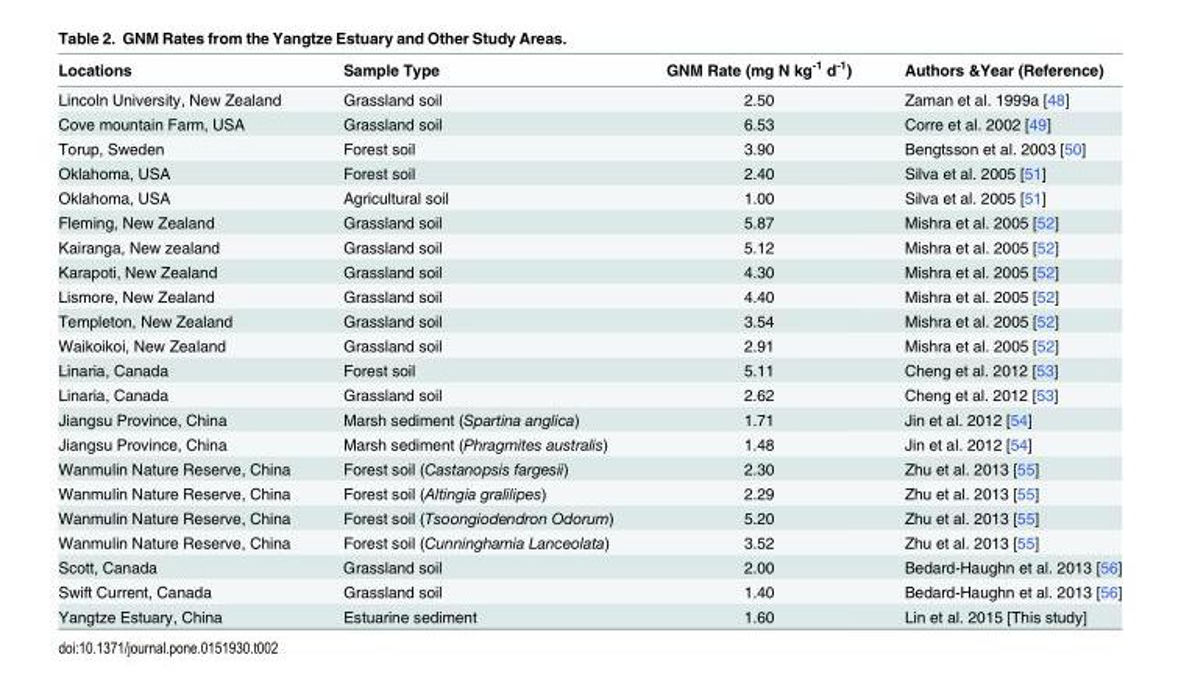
<table><thead><tr><td>Locations</td><td>Sample Type</td><td>GNM Rate (mg N kg<sup>-1</sup> d<sup>-1</sup>)</td><td>Authors &amp;Year (Reference)</td></tr></thead><tbody><tr><td>Lincoln University, New Zealand</td><td>Grassland soil</td><td>2.50</td><td>Zaman et al. 1999a [48]</td></tr><tr><td>Cove mountain Farm, USA</td><td>Grassland soil</td><td>6.53</td><td>Corre et al. 2002 [49]</td></tr><tr><td>Torup, Sweden</td><td>Forest soil</td><td>3.90</td><td>Bengtsson et al. 2003 [50]</td></tr><tr><td>Oklahoma, USA</td><td>Forest soil</td><td>2.40</td><td>Silva et al. 2005 [51]</td></tr><tr><td>Oklahoma, USA</td><td>Agricultural soil</td><td>1.00</td><td>Silva et al. 2005 [51]</td></tr><tr><td>Fleming, New Zealand</td><td>Grassland soil</td><td>5.87</td><td>Mishra et al. 2005 [52]</td></tr><tr><td>Kairanga, New zealand</td><td>Grassland soil</td><td>5.12</td><td>Mishra et al. 2005 [52]</td></tr><tr><td>Karapoti, New Zealand</td><td>Grassland soil</td><td>4.30</td><td>Mishra et al. 2005 [52]</td></tr><tr><td>Lismore, New Zealand</td><td>Grassland soil</td><td>4.40</td><td>Mishra et al. 2005 [52]</td></tr><tr><td>Templeton, New Zealand</td><td>Grassland soil</td><td>3.54</td><td>Mishra et al. 2005 [52]</td></tr><tr><td>Waikoikoi, New Zealand</td><td>Grassland soil</td><td>2.91</td><td>Mishra et al. 2005 [52]</td></tr><tr><td>Linaria, Canada</td><td>Forest soil</td><td>5.11</td><td>Cheng et al. 2012 [53]</td></tr><tr><td>Linaria, Canada</td><td>Grassland soil</td><td>2.62</td><td>Cheng et al. 2012 [53]</td></tr><tr><td>Jiangsu Province, China</td><td>Marsh sediment (Spartina anglica)</td><td>1.71</td><td>Jin et al. 2012 [54]</td></tr><tr><td>Jiangsu Province, China</td><td>Marsh sediment (Phragmites australis)</td><td>1.48</td><td>Jin et al. 2012 [54]</td></tr><tr><td>Wanmulin Nature Reserve, China</td><td>Forest soil (Castanopsis fargesii)</td><td>2.30</td><td>Zhu et al. 2013 [55]</td></tr><tr><td>Wanmulin Nature Reserve, China</td><td>Forest soil (Altingia gralilipes)</td><td>2.29</td><td>Zhu et al. 2013 [55]</td></tr><tr><td>Wanmulin Nature Reserve, China</td><td>Forest soil (Tsoongiodendron Odorum)</td><td>5.20</td><td>Zhu et al. 2013 [55]</td></tr><tr><td>Wanmulin Nature Reserve, China</td><td>Forest soil (Cunninghamia Lanceolata)</td><td>3.52</td><td>Zhu et al. 2013 [55]</td></tr><tr><td>Scott, Canada</td><td>Grassland soil</td><td>2.00</td><td>Bedard-Haughn et al. 2013 [56]</td></tr><tr><td>Swift Current, Canada</td><td>Grassland soil</td><td>1.40</td><td>Bedard-Haughn et al. 2013 [56]</td></tr><tr><td>Yangtze Estuary, China</td><td>Estuarine sediment</td><td>1.60</td><td>Lin et al. 2015 [This study]</td></tr></tbody></table>